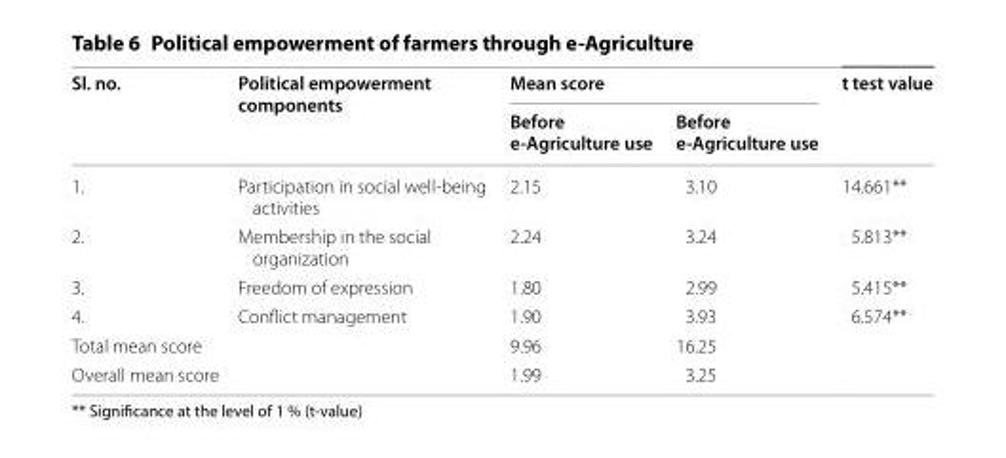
<table><thead><tr><td rowspan="2">Sl. no.</td><td rowspan="2">Political empowerment components</td><td colspan="2">Mean score</td><td rowspan="2">t test value</td></tr><tr><td>Before e‑Agriculture use</td><td>Before e‑Agriculture use</td></tr></thead><tbody><tr><td>1.</td><td>Participation in social well-being activities</td><td>2.15</td><td>3.10</td><td>14.661**</td></tr><tr><td>2.</td><td>Membership in the social organization</td><td>2.24</td><td>3.24</td><td>5.813**</td></tr><tr><td>3.</td><td>Freedom of expression</td><td>1.80</td><td>2.99</td><td>5.415**</td></tr><tr><td>4.</td><td>Conflict management</td><td>1.90</td><td>3.93</td><td>6.574**</td></tr><tr><td colspan="2">Total mean score</td><td>9.96</td><td>16.25</td><td></td></tr><tr><td colspan="2">Overall mean score</td><td>1.99</td><td>3.25</td><td></td></tr></tbody></table>